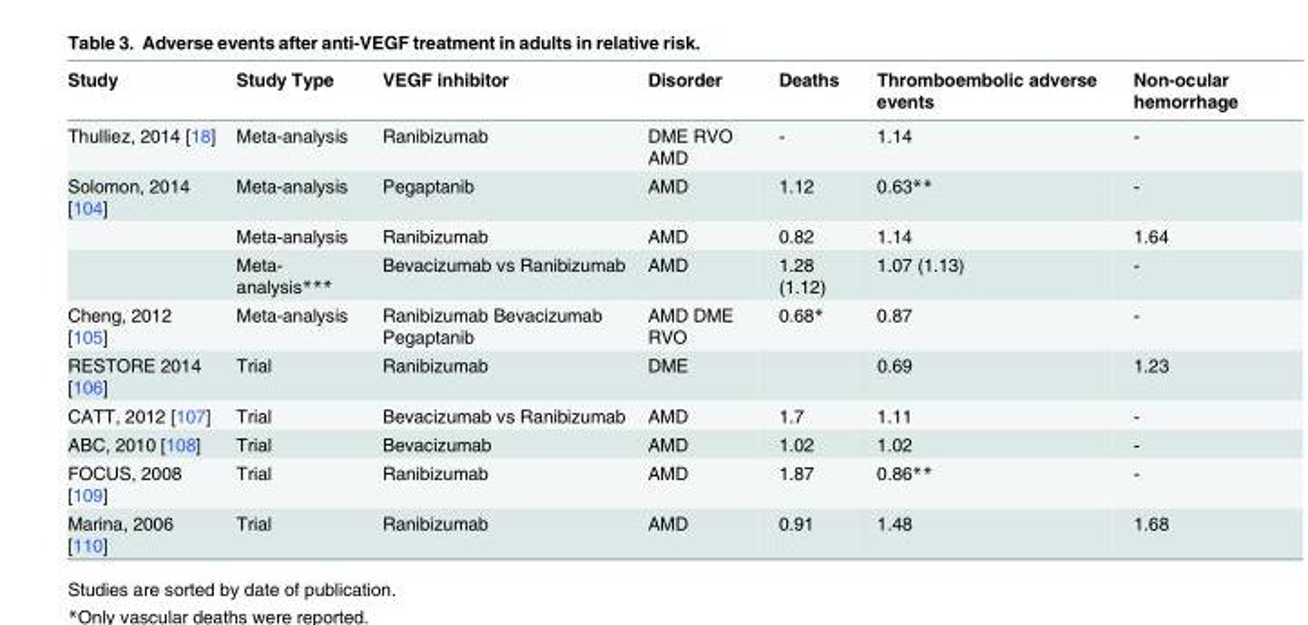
<table><thead><tr><td>Study</td><td>Study Type</td><td>VEGF inhibitor</td><td>Disorder</td><td>Deaths</td><td>Thromboembolic adverse events</td><td>Non-ocular hemorrhage</td></tr></thead><tbody><tr><td>Thulliez, 2014 [18]</td><td>Meta-analysis</td><td>Ranibizumab</td><td>DME RVO AMD</td><td>-</td><td>1.14</td><td>-</td></tr><tr><td rowspan="3">Solomon, 2014 [104]</td><td>Meta-analysis</td><td>Pegaptanib</td><td>AMD</td><td>1.12</td><td>0.63**</td><td>-</td></tr><tr><td>Meta-analysis</td><td>Ranibizumab</td><td>AMD</td><td>0.82</td><td>1.14</td><td>1.64</td></tr><tr><td>Meta- analysis***</td><td>Bevacizumab vs Ranibizumab</td><td>AMD</td><td>1.28 (1.12)</td><td>1.07 (1.13)</td><td>-</td></tr><tr><td>Cheng, 2012 [105]</td><td>Meta-analysis</td><td>Ranibizumab Bevacizumab Pegaptanib</td><td>AMD DME RVO</td><td>0.68*</td><td>0.87</td><td>-</td></tr><tr><td>RESTORE 2014 [106]</td><td>Trial</td><td>Ranibizumab</td><td>DME</td><td></td><td>0.69</td><td>1.23</td></tr><tr><td>CATT, 2012 [107]</td><td>Trial</td><td>Bevacizumab vs Ranibizumab</td><td>AMD</td><td>1.7</td><td>1.11</td><td>-</td></tr><tr><td>ABC, 2010 [108]</td><td>Trial</td><td>Bevacizumab</td><td>AMD</td><td>1.02</td><td>1.02</td><td>-</td></tr><tr><td>FOCUS, 2008 [109]</td><td>Trial</td><td>Ranibizumab</td><td>AMD</td><td>1.87</td><td>0.86**</td><td>-</td></tr><tr><td>Marina, 2006 [110]</td><td>Trial</td><td>Ranibizumab</td><td>AMD</td><td>0.91</td><td>1.48</td><td>1.68</td></tr></tbody></table>